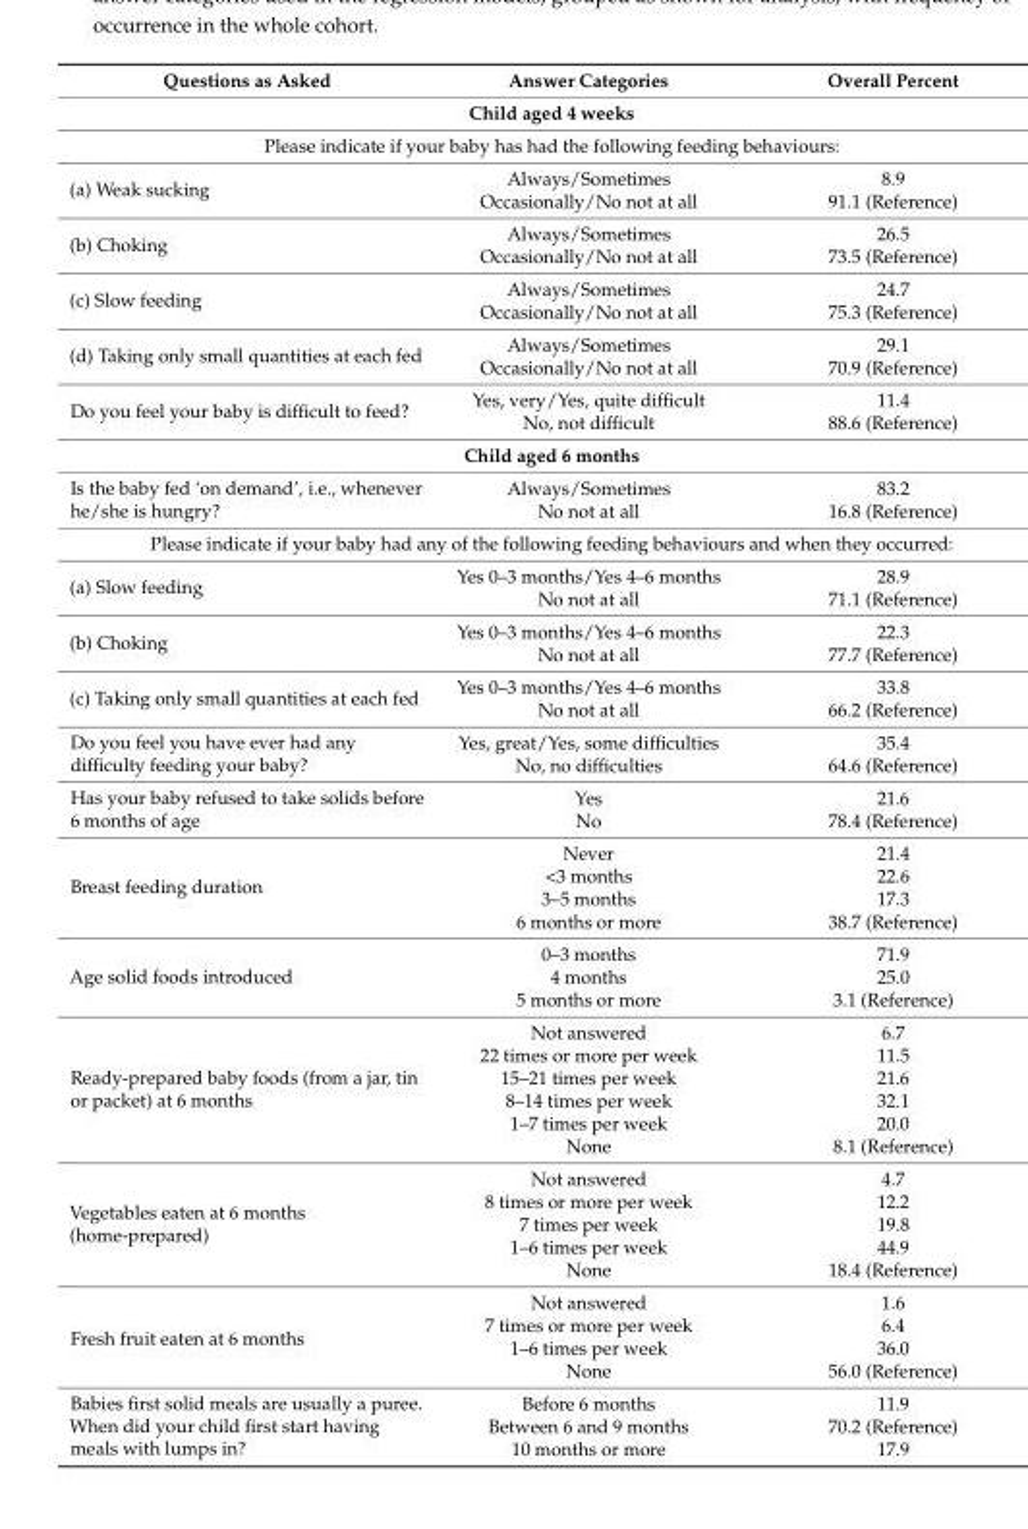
<table><thead><tr><td>Questions as Asked</td><td>Answer Categories</td><td>Overall Percent</td></tr></thead><tbody><tr><td colspan="3">Child aged 4 weeks</td></tr><tr><td colspan="3">Please indicate if your baby has had the following feeding behaviours:</td></tr><tr><td rowspan="2">(a) Weak sucking</td><td>Always/Sometimes</td><td>8.9</td></tr><tr><td>Occasionally/No not at all</td><td>91.1 (Reference)</td></tr><tr><td rowspan="2">(b) Choking</td><td>Always/Sometimes</td><td>26.5</td></tr><tr><td>Occasionally/No not at all</td><td>73.5 (Reference)</td></tr><tr><td rowspan="2">(c) Slow feeding</td><td>Always/Sometimes</td><td>24.7</td></tr><tr><td>Occasionally/No not at all</td><td>75.3 (Reference)</td></tr><tr><td rowspan="2">(d) Taking only small quantities at each fed</td><td>Always/Sometimes</td><td>29.1</td></tr><tr><td>Occasionally/No not at all</td><td>70.9 (Reference)</td></tr><tr><td rowspan="2">Do you feel your baby is difficult to feed?</td><td>Yes, very/Yes, quite difficult</td><td>11.4</td></tr><tr><td>No, not difficult</td><td>88.6 (Reference)</td></tr><tr><td colspan="3">Child aged 6 months</td></tr><tr><td rowspan="2">Is the baby fed ‘on demand’, i.e., whenever he/she is hungry?</td><td>Always/Sometimes</td><td>83.2</td></tr><tr><td>No not at all</td><td>16.8 (Reference)</td></tr><tr><td colspan="3">Please indicate if your baby had any of the following feeding behaviours and when they occurred:</td></tr><tr><td rowspan="2">(a) Slow feeding</td><td>Yes 0–3 months/Yes 4–6 months</td><td>28.9</td></tr><tr><td>No not at all</td><td>71.1 (Reference)</td></tr><tr><td rowspan="2">(b) Choking</td><td>Yes 0–3 months/Yes 4–6 months</td><td>22.3</td></tr><tr><td>No not at all</td><td>77.7 (Reference)</td></tr><tr><td rowspan="2">(c) Taking only small quantities at each fed</td><td>Yes 0–3 months/Yes 4–6 months</td><td>33.8</td></tr><tr><td>No not at all</td><td>66.2 (Reference)</td></tr><tr><td rowspan="2">Do you feel you have ever had any difficulty feeding your baby?</td><td>Yes, great/Yes, some difficulties</td><td>35.4</td></tr><tr><td>No, no difficulties</td><td>64.6 (Reference)</td></tr><tr><td rowspan="2">Has your baby refused to take solids before 6 months of age</td><td>Yes</td><td>21.6</td></tr><tr><td>No</td><td>78.4 (Reference)</td></tr><tr><td rowspan="4">Breast feeding duration</td><td>Never</td><td>21.4</td></tr><tr><td>&lt;3 months</td><td>22.6</td></tr><tr><td>3–5 months</td><td>17.3</td></tr><tr><td>6 months or more</td><td>38.7 (Reference)</td></tr><tr><td rowspan="3">Age solid foods introduced</td><td>0–3 months</td><td>71.9</td></tr><tr><td>4 months</td><td>25.0</td></tr><tr><td>5 months or more</td><td>3.1 (Reference)</td></tr><tr><td rowspan="6">Ready-prepared baby foods (from a jar, tin or packet) at 6 months</td><td>Not answered</td><td>6.7</td></tr><tr><td>22 times or more per week</td><td>11.5</td></tr><tr><td>15–21 times per week</td><td>21.6</td></tr><tr><td>8–14 times per week</td><td>32.1</td></tr><tr><td>1–7 times per week</td><td>20.0</td></tr><tr><td>None</td><td>8.1 (Reference)</td></tr><tr><td rowspan="5">Vegetables eaten at 6 months (home-prepared)</td><td>Not answered</td><td>4.7</td></tr><tr><td>8 times or more per week</td><td>12.2</td></tr><tr><td>7 times per week</td><td>19.8</td></tr><tr><td>1–6 times per week</td><td>44.9</td></tr><tr><td>None</td><td>18.4 (Reference)</td></tr><tr><td rowspan="4">Fresh fruit eaten at 6 months</td><td>Not answered</td><td>1.6</td></tr><tr><td>7 times or more per week</td><td>6.4</td></tr><tr><td>1–6 times per week</td><td>36.0</td></tr><tr><td>None</td><td>56.0 (Reference)</td></tr><tr><td rowspan="3">Babies first solid meals are usually a puree. When did your child first start having meals with lumps in?</td><td>Before 6 months</td><td>11.9</td></tr><tr><td>Between 6 and 9 months</td><td>70.2 (Reference)</td></tr><tr><td>10 months or more</td><td>17.9</td></tr></tbody></table>